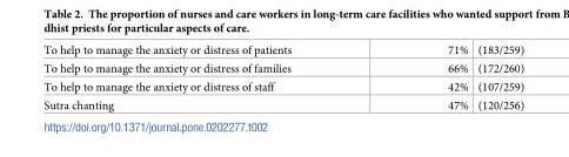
<table><tbody><tr><td>To help to manage the anxiety or distress of patients</td><td>71%</td><td>(183/259)</td></tr><tr><td>To help to manage the anxiety or distress of families</td><td>66%</td><td>(172/260)</td></tr><tr><td>To help to manage the anxiety or distress of staff</td><td>42%</td><td>(107/259)</td></tr><tr><td>Sutra chanting</td><td>47%</td><td>(120/256)</td></tr></tbody></table>